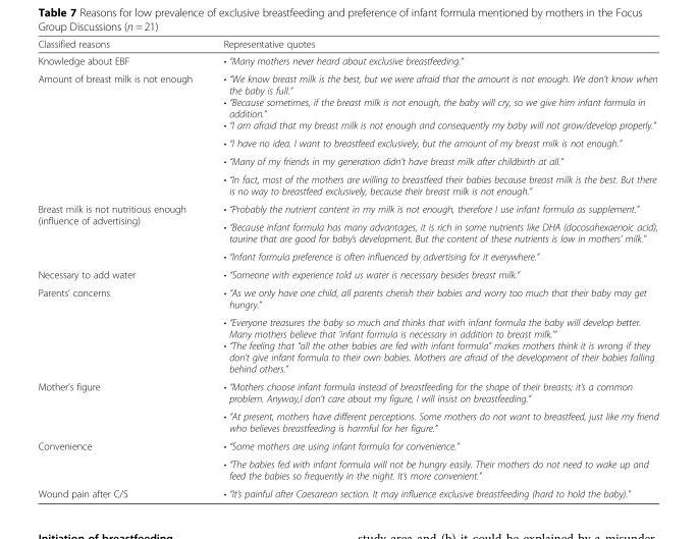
<table><thead><tr><td>Classified reasons</td><td>Representative quotes</td></tr></thead><tbody><tr><td>Knowledge about EBF</td><td>• “Many mothers never heard about exclusive breastfeeding.”</td></tr><tr><td rowspan="4">Amount of breast milk is not enough</td><td>• “We know breast milk is the best, but we were afraid that the amount is not enough. We don’t know when the baby is full.” • “Because sometimes, if the breast milk is not enough, the baby will cry, so we give him infant formula in addition.” • “I am afraid that my breast milk is not enough and consequently my baby will not grow/develop properly.”</td></tr><tr><td>• “I have no idea. I want to breastfeed exclusively, but the amount of my breast milk is not enough.”</td></tr><tr><td>• “Many of my friends in my generation didn’t have breast milk after childbirth at all.”</td></tr><tr><td>• “In fact, most of the mothers are willing to breastfeed their babies because breast milk is the best. But there is no way to breastfeed exclusively, because their breast milk is not enough.”</td></tr><tr><td rowspan="3">Breast milk is not nutritious enough (influence of advertising)</td><td>• “Probably the nutrient content in my milk is not enough, therefore I use infant formula as supplement.”</td></tr><tr><td>• “Because infant formula has many advantages, it is rich in some nutrients like DHA (docosahexaenoic acid), taurine that are good for baby’s development. But the content of these nutrients is low in mothers’ milk.”</td></tr><tr><td>• “Infant formula preference is often influenced by advertising for it everywhere.”</td></tr><tr><td>Necessary to add water</td><td>• “Someone with experience told us water is necessary besides breast milk.”</td></tr><tr><td rowspan="2">Parents’ concerns</td><td>• “As we only have one child, all parents cherish their babies and worry too much that their baby may get hungry.”</td></tr><tr><td>• “Everyone treasures the baby so much and thinks that with infant formula the baby will develop better. Many mothers believe that ‘infant formula is necessary in addition to breast milk.’” • “The feeling that “all the other babies are fed with infant formula” makes mothers think it is wrong if they don’t give infant formula to their own babies. Mothers are afraid of the development of their babies falling behind others.”</td></tr><tr><td rowspan="2">Mother’s figure</td><td>• “Mothers choose infant formula instead of breastfeeding for the shape of their breasts; it’s a common problem. Anyway,I don’t care about my figure, I will insist on breastfeeding.”</td></tr><tr><td>• “At present, mothers have different perceptions. Some mothers do not want to breastfeed, just like my friend who believes breastfeeding is harmful for her figure.”</td></tr><tr><td rowspan="2">Convenience</td><td>• “Some mothers are using infant formula for convenience.”</td></tr><tr><td>• “The babies fed with infant formula will not be hungry easily. Their mothers do not need to wake up and feed the babies so frequently in the night. It’s more convenient.”</td></tr><tr><td>Wound pain after C/S</td><td>• “It’s painful after Caesarean section. It may influence exclusive breastfeeding (hard to hold the baby).”</td></tr></tbody></table>